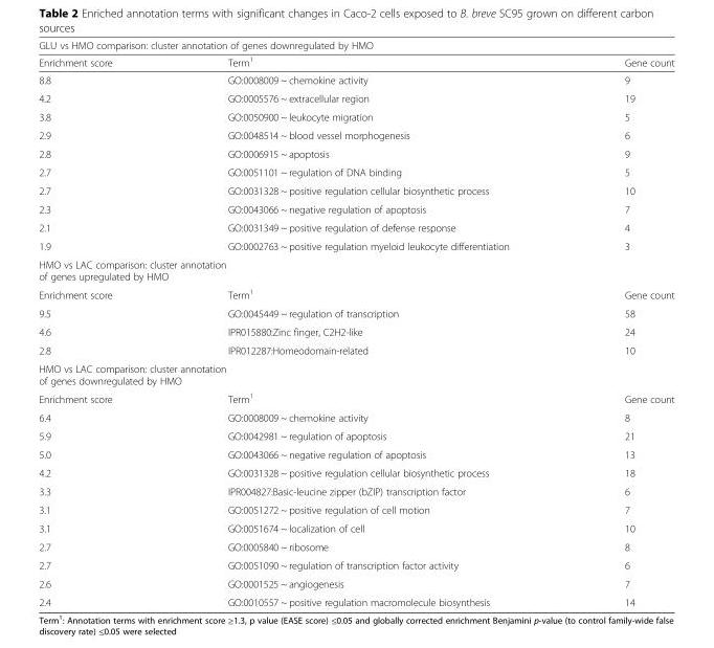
<table><tbody><tr><td colspan="3">GLU vs HMO comparison: cluster annotation of genes downregulated by HMO</td></tr><tr><td>Enrichment score</td><td>Term<sup>1</sup></td><td>Gene count</td></tr><tr><td>8.8</td><td>GO:0008009 ~ chemokine activity</td><td>9</td></tr><tr><td>4.2</td><td>GO:0005576 ~ extracellular region</td><td>19</td></tr><tr><td>3.8</td><td>GO:0050900 ~ leukocyte migration</td><td>5</td></tr><tr><td>2.9</td><td>GO:0048514 ~ blood vessel morphogenesis</td><td>6</td></tr><tr><td>2.8</td><td>GO:0006915 ~ apoptosis</td><td>9</td></tr><tr><td>2.7</td><td>GO:0051101 ~ regulation of DNA binding</td><td>5</td></tr><tr><td>2.7</td><td>GO:0031328 ~ positive regulation cellular biosynthetic process</td><td>10</td></tr><tr><td>2.3</td><td>GO:0043066 ~ negative regulation of apoptosis</td><td>7</td></tr><tr><td>2.1</td><td>GO:0031349 ~ positive regulation of defense response</td><td>4</td></tr><tr><td>1.9</td><td>GO:0002763 ~ positive regulation myeloid leukocyte differentiation</td><td>3</td></tr><tr><td colspan="3">HMO vs LAC comparison: cluster annotation of genes upregulated by HMO</td></tr><tr><td>Enrichment score</td><td>Term<sup>1</sup></td><td>Gene count</td></tr><tr><td>9.5</td><td>GO:0045449 ~ regulation of transcription</td><td>58</td></tr><tr><td>4.6</td><td>IPR015880:Zinc finger, C2H2-like</td><td>24</td></tr><tr><td>2.8</td><td>IPR012287:Homeodomain-related</td><td>10</td></tr><tr><td colspan="3">HMO vs LAC comparison: cluster annotation of genes downregulated by HMO</td></tr><tr><td>Enrichment score</td><td>Term<sup>1</sup></td><td>Gene count</td></tr><tr><td>6.4</td><td>GO:0008009 ~ chemokine activity</td><td>8</td></tr><tr><td>5.9</td><td>GO:0042981 ~ regulation of apoptosis</td><td>21</td></tr><tr><td>5.0</td><td>GO:0043066 ~ negative regulation of apoptosis</td><td>13</td></tr><tr><td>4.2</td><td>GO:0031328 ~ positive regulation cellular biosynthetic process</td><td>18</td></tr><tr><td>3.3</td><td>IPR004827:Basic-leucine zipper (bZIP) transcription factor</td><td>6</td></tr><tr><td>3.1</td><td>GO:0051272 ~ positive regulation of cell motion</td><td>7</td></tr><tr><td>3.1</td><td>GO:0051674 ~ localization of cell</td><td>10</td></tr><tr><td>2.7</td><td>GO:0005840 ~ ribosome</td><td>8</td></tr><tr><td>2.7</td><td>GO:0051090 ~ regulation of transcription factor activity</td><td>6</td></tr><tr><td>2.6</td><td>GO:0001525 ~ angiogenesis</td><td>7</td></tr><tr><td>2.4</td><td>GO:0010557 ~ positive regulation macromolecule biosynthesis</td><td>14</td></tr></tbody></table>